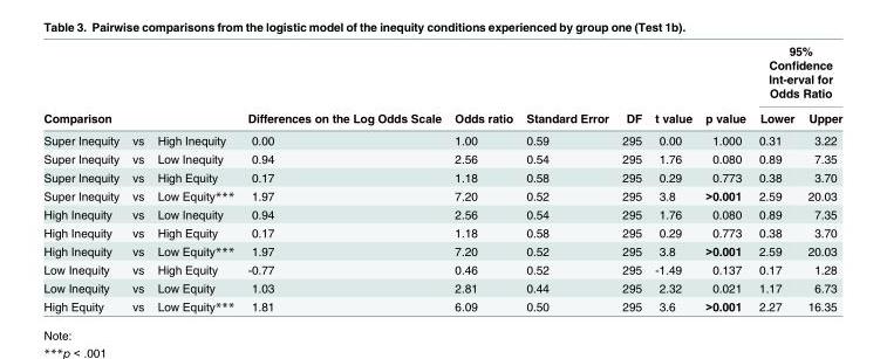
<table><thead><tr><td></td><td></td><td></td><td rowspan="2">Differences on the Log Odds Scale</td><td rowspan="2">Odds ratio</td><td rowspan="2">Standard Error</td><td rowspan="2">DF</td><td rowspan="2">t value</td><td rowspan="2">p value</td><td colspan="2">95% Confidence Int-erval for Odds Ratio</td></tr><tr><td colspan="3">Comparison</td><td>Lower</td><td>Upper</td></tr></thead><tbody><tr><td>Super Inequity</td><td>vs</td><td>High Inequity</td><td>0.00</td><td>1.00</td><td>0.59</td><td>295</td><td>0.00</td><td>1.000</td><td>0.31</td><td>3.22</td></tr><tr><td>Super Inequity</td><td>vs</td><td>Low Inequity</td><td>0.94</td><td>2.56</td><td>0.54</td><td>295</td><td>1.76</td><td>0.080</td><td>0.89</td><td>7.35</td></tr><tr><td>Super Inequity</td><td>vs</td><td>High Equity</td><td>0.17</td><td>1.18</td><td>0.58</td><td>295</td><td>0.29</td><td>0.773</td><td>0.38</td><td>3.70</td></tr><tr><td>Super Inequity</td><td>vs</td><td>Low Equity***</td><td>1.97</td><td>7.20</td><td>0.52</td><td>295</td><td>3.8</td><td>&gt;0.001</td><td>2.59</td><td>20.03</td></tr><tr><td>High Inequity</td><td>vs</td><td>Low Inequity</td><td>0.94</td><td>2.56</td><td>0.54</td><td>295</td><td>1.76</td><td>0.080</td><td>0.89</td><td>7.35</td></tr><tr><td>High Inequity</td><td>vs</td><td>High Equity</td><td>0.17</td><td>1.18</td><td>0.58</td><td>295</td><td>0.29</td><td>0.773</td><td>0.38</td><td>3.70</td></tr><tr><td>High Inequity</td><td>vs</td><td>Low Equity***</td><td>1.97</td><td>7.20</td><td>0.52</td><td>295</td><td>3.8</td><td>&gt;0.001</td><td>2.59</td><td>20.03</td></tr><tr><td>Low Inequity</td><td>vs</td><td>High Equity</td><td>-0.77</td><td>0.46</td><td>0.52</td><td>295</td><td>-1.49</td><td>0.137</td><td>0.17</td><td>1.28</td></tr><tr><td>Low Inequity</td><td>vs</td><td>Low Equity</td><td>1.03</td><td>2.81</td><td>0.44</td><td>295</td><td>2.32</td><td>0.021</td><td>1.17</td><td>6.73</td></tr><tr><td>High Equity</td><td>vs</td><td>Low Equity***</td><td>1.81</td><td>6.09</td><td>0.50</td><td>295</td><td>3.6</td><td>&gt;0.001</td><td>2.27</td><td>16.35</td></tr></tbody></table>